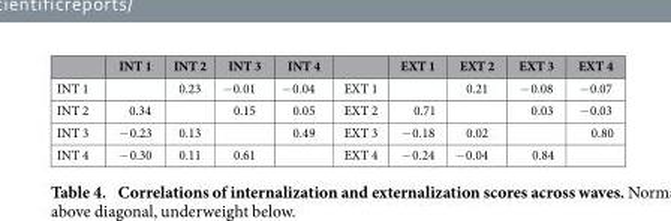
<table><thead><tr><td></td><td>INT 1</td><td>INT 2</td><td>INT 3</td><td>INT 4</td><td></td><td>EXT 1</td><td>EXT 2</td><td>EXT 3</td><td>EXT 4</td></tr></thead><tbody><tr><td>INT 1</td><td></td><td>0.23</td><td>− 0.01</td><td>− 0.04</td><td>EXT 1</td><td></td><td>0.21</td><td>− 0.08</td><td>− 0.07</td></tr><tr><td>INT 2</td><td>0.34</td><td></td><td>0.15</td><td>0.05</td><td>EXT 2</td><td>0.71</td><td></td><td>0.03</td><td>− 0.03</td></tr><tr><td>INT 3</td><td>− 0.23</td><td>0.13</td><td></td><td>0.49</td><td>EXT 3</td><td>− 0.18</td><td>0.02</td><td></td><td>0.80</td></tr><tr><td>INT 4</td><td>− 0.30</td><td>0.11</td><td>0.61</td><td></td><td>EXT 4</td><td>− 0.24</td><td>− 0.04</td><td>0.84</td><td></td></tr></tbody></table>